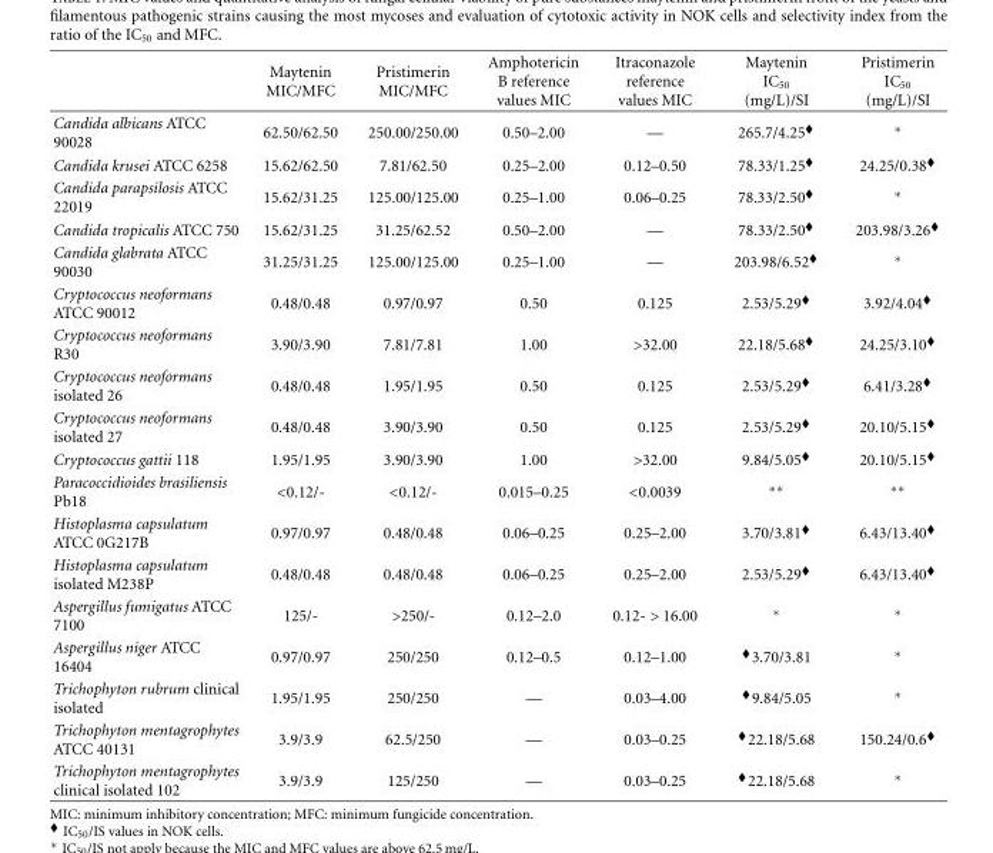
<table><thead><tr><td></td><td>Maytenin MIC/MFC</td><td>Pristimerin MIC/MFC</td><td>Amphotericin B reference values MIC</td><td>Itraconazole reference values MIC</td><td>Maytenin IC<sub>50</sub> (mg/L)/SI</td><td>Pristimerin IC<sub>50</sub> (mg/L)/SI</td></tr></thead><tbody><tr><td>Candida albicans ATCC 90028</td><td>62.50/62.50</td><td>250.00/250.00</td><td>0.50–2.00</td><td>—</td><td>265.7/4.25<sup>♦</sup></td><td>∗</td></tr><tr><td>Candida krusei ATCC 6258</td><td>15.62/62.50</td><td>7.81/62.50</td><td>0.25–2.00</td><td>0.12–0.50</td><td>78.33/1.25<sup>♦</sup></td><td>24.25/0.38<sup>♦</sup></td></tr><tr><td>Candida parapsilosis ATCC 22019</td><td>15.62/31.25</td><td>125.00/125.00</td><td>0.25–1.00</td><td>0.06–0.25</td><td>78.33/2.50<sup>♦</sup></td><td>∗</td></tr><tr><td>Candida tropicalis ATCC 750</td><td>15.62/31.25</td><td>31.25/62.52</td><td>0.50–2.00</td><td>—</td><td>78.33/2.50<sup>♦</sup></td><td>203.98/3.26<sup>♦</sup></td></tr><tr><td>Candida glabrata ATCC 90030</td><td>31.25/31.25</td><td>125.00/125.00</td><td>0.25–1.00</td><td>—</td><td>203.98/6.52<sup>♦</sup></td><td>∗</td></tr><tr><td>Cryptococcus neoformans ATCC 90012</td><td>0.48/0.48</td><td>0.97/0.97</td><td>0.50</td><td>0.125</td><td>2.53/5.29<sup>♦</sup></td><td>3.92/4.04<sup>♦</sup></td></tr><tr><td>Cryptococcus neoformans R30</td><td>3.90/3.90</td><td>7.81/7.81</td><td>1.00</td><td>&gt;32.00</td><td>22.18/5.68<sup>♦</sup></td><td>24.25/3.10<sup>♦</sup></td></tr><tr><td>Cryptococcus neoformans isolated 26</td><td>0.48/0.48</td><td>1.95/1.95</td><td>0.50</td><td>0.125</td><td>2.53/5.29<sup>♦</sup></td><td>6.41/3.28<sup>♦</sup></td></tr><tr><td>Cryptococcus neoformans isolated 27</td><td>0.48/0.48</td><td>3.90/3.90</td><td>0.50</td><td>0.125</td><td>2.53/5.29<sup>♦</sup></td><td>20.10/5.15<sup>♦</sup></td></tr><tr><td>Cryptococcus gattii 118</td><td>1.95/1.95</td><td>3.90/3.90</td><td>1.00</td><td>&gt;32.00</td><td>9.84/5.05<sup>♦</sup></td><td>20.10/5.15<sup>♦</sup></td></tr><tr><td>Paracoccidioides brasiliensis Pb18</td><td>&lt;0.12/-</td><td>&lt;0.12/-</td><td>0.015–0.25</td><td>&lt;0.0039</td><td>∗∗</td><td>∗∗</td></tr><tr><td>Histoplasma capsulatum ATCC 0G217B</td><td>0.97/0.97</td><td>0.48/0.48</td><td>0.06–0.25</td><td>0.25–2.00</td><td>3.70/3.81<sup>♦</sup></td><td>6.43/13.40<sup>♦</sup></td></tr><tr><td>Histoplasma capsulatum isolated M238P</td><td>0.48/0.48</td><td>0.48/0.48</td><td>0.06–0.25</td><td>0.25–2.00</td><td>2.53/5.29<sup>♦</sup></td><td>6.43/13.40<sup>♦</sup></td></tr><tr><td>Aspergillus fumigatus ATCC 7100</td><td>125/-</td><td>&gt;250/-</td><td>0.12–2.0</td><td>0.12- &gt; 16.00</td><td>∗</td><td>∗</td></tr><tr><td>Aspergillus niger ATCC 16404</td><td>0.97/0.97</td><td>250/250</td><td>0.12–0.5</td><td>0.12–1.00</td><td><sup>♦</sup>3.70/3.81</td><td>∗</td></tr><tr><td>Trichophyton rubrum clinical isolated</td><td>1.95/1.95</td><td>250/250</td><td>—</td><td>0.03–4.00</td><td><sup>♦</sup>9.84/5.05</td><td>∗</td></tr><tr><td>Trichophyton mentagrophytes ATCC 40131</td><td>3.9/3.9</td><td>62.5/250</td><td>—</td><td>0.03–0.25</td><td><sup>♦</sup>22.18/5.68</td><td>150.24/0.6<sup>♦</sup></td></tr><tr><td>Trichophyton mentagrophytes clinical isolated 102</td><td>3.9/3.9</td><td>125/250</td><td>—</td><td>0.03–0.25</td><td><sup>♦</sup>22.18/5.68</td><td>∗</td></tr></tbody></table>